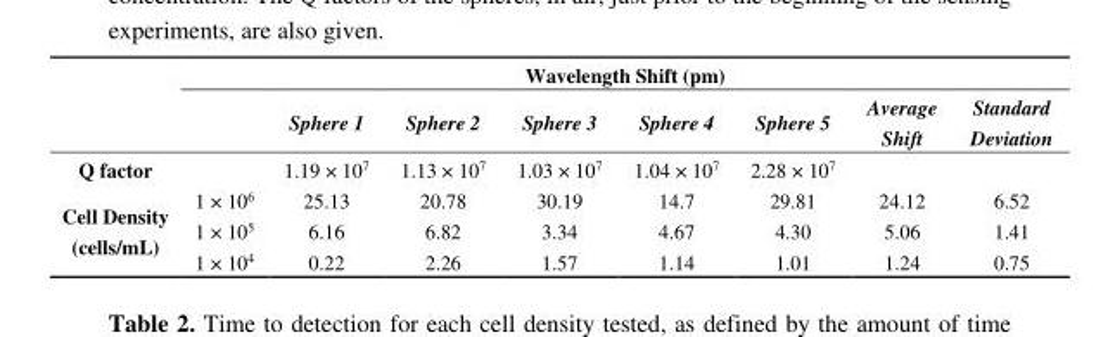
<table><thead><tr><td rowspan="2"></td><td colspan="8">Wavelength Shift (pm)</td></tr><tr><td></td><td>Sphere 1</td><td>Sphere 2</td><td>Sphere 3</td><td>Sphere 4</td><td>Sphere 5</td><td>Average Shift</td><td>Standard Deviation</td></tr></thead><tbody><tr><td>Q factor</td><td></td><td>1.19 × 10<sup>7</sup></td><td>1.13 × 10<sup>7</sup></td><td>1.03 × 10<sup>7</sup></td><td>1.04 × 10<sup>7</sup></td><td>2.28 × 10<sup>7</sup></td><td></td><td></td></tr><tr><td rowspan="3">Cell Density (cells/mL)</td><td>1 × 10<sup>6</sup></td><td>25.13</td><td>20.78</td><td>30.19</td><td>14.7</td><td>29.81</td><td>24.12</td><td>6.52</td></tr><tr><td>1 × 10<sup>5</sup></td><td>6.16</td><td>6.82</td><td>3.34</td><td>4.67</td><td>4.30</td><td>5.06</td><td>1.41</td></tr><tr><td>1 × 10<sup>4</sup></td><td>0.22</td><td>2.26</td><td>1.57</td><td>1.14</td><td>1.01</td><td>1.24</td><td>0.75</td></tr></tbody></table>